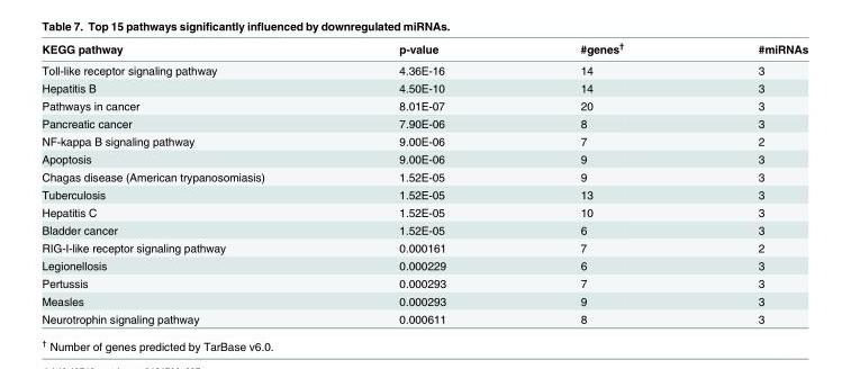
<table><thead><tr><td>KEGG pathway</td><td>p-value</td><td>#genes<sup>†</sup></td><td>#miRNAs</td></tr></thead><tbody><tr><td>Toll-like receptor signaling pathway</td><td>4.36E-16</td><td>14</td><td>3</td></tr><tr><td>Hepatitis B</td><td>4.50E-10</td><td>14</td><td>3</td></tr><tr><td>Pathways in cancer</td><td>8.01E-07</td><td>20</td><td>3</td></tr><tr><td>Pancreatic cancer</td><td>7.90E-06</td><td>8</td><td>3</td></tr><tr><td>NF-kappa B signaling pathway</td><td>9.00E-06</td><td>7</td><td>2</td></tr><tr><td>Apoptosis</td><td>9.00E-06</td><td>9</td><td>3</td></tr><tr><td>Chagas disease (American trypanosomiasis)</td><td>1.52E-05</td><td>9</td><td>3</td></tr><tr><td>Tuberculosis</td><td>1.52E-05</td><td>13</td><td>3</td></tr><tr><td>Hepatitis C</td><td>1.52E-05</td><td>10</td><td>3</td></tr><tr><td>Bladder cancer</td><td>1.52E-05</td><td>6</td><td>3</td></tr><tr><td>RIG-I-like receptor signaling pathway</td><td>0.000161</td><td>7</td><td>2</td></tr><tr><td>Legionellosis</td><td>0.000229</td><td>6</td><td>3</td></tr><tr><td>Pertussis</td><td>0.000293</td><td>7</td><td>3</td></tr><tr><td>Measles</td><td>0.000293</td><td>9</td><td>3</td></tr><tr><td>Neurotrophin signaling pathway</td><td>0.000611</td><td>8</td><td>3</td></tr></tbody></table>